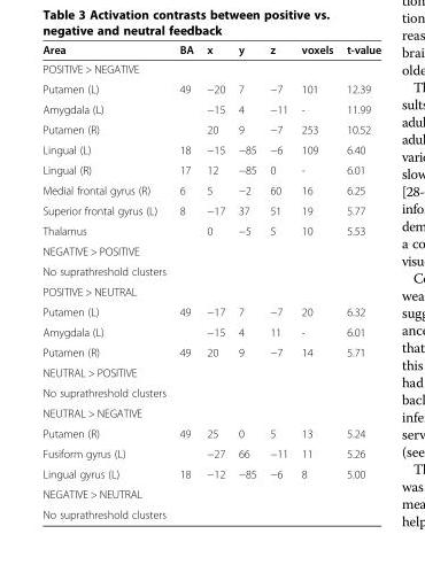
<table><thead><tr><td>Area</td><td>BA</td><td>x</td><td>y</td><td>z</td><td>voxels</td><td>t-value</td></tr></thead><tbody><tr><td colspan="7">POSITIVE &gt; NEGATIVE</td></tr><tr><td>Putamen (L)</td><td>49</td><td>−20</td><td>7</td><td>−7</td><td>101</td><td>12.39</td></tr><tr><td>Amygdala (L)</td><td></td><td>−15</td><td>4</td><td>−11</td><td>-</td><td>11.99</td></tr><tr><td>Putamen (R)</td><td></td><td>20</td><td>9</td><td>−7</td><td>253</td><td>10.52</td></tr><tr><td>Lingual (L)</td><td>18</td><td>−15</td><td>−85</td><td>−6</td><td>109</td><td>6.40</td></tr><tr><td>Lingual (R)</td><td>17</td><td>12</td><td>−85</td><td>0</td><td>-</td><td>6.01</td></tr><tr><td>Medial frontal gyrus (R)</td><td>6</td><td>5</td><td>−2</td><td>60</td><td>16</td><td>6.25</td></tr><tr><td>Superior frontal gyrus (L)</td><td>8</td><td>−17</td><td>37</td><td>51</td><td>19</td><td>5.77</td></tr><tr><td>Thalamus</td><td></td><td>0</td><td>−5</td><td>5</td><td>10</td><td>5.53</td></tr><tr><td colspan="7">NEGATIVE &gt; POSITIVE</td></tr><tr><td colspan="7">No suprathreshold clusters</td></tr><tr><td colspan="7">POSITIVE &gt; NEUTRAL</td></tr><tr><td>Putamen (L)</td><td>49</td><td>−17</td><td>7</td><td>−7</td><td>20</td><td>6.32</td></tr><tr><td>Amygdala (L)</td><td></td><td>−15</td><td>4</td><td>11</td><td>-</td><td>6.01</td></tr><tr><td>Putamen (R)</td><td>49</td><td>20</td><td>9</td><td>−7</td><td>14</td><td>5.71</td></tr><tr><td colspan="7">NEUTRAL &gt; POSITIVE</td></tr><tr><td colspan="7">No suprathreshold clusters</td></tr><tr><td colspan="7">NEUTRAL &gt; NEGATIVE</td></tr><tr><td>Putamen (R)</td><td>49</td><td>25</td><td>0</td><td>5</td><td>13</td><td>5.24</td></tr><tr><td>Fusiform gyrus (L)</td><td></td><td>−27</td><td>66</td><td>−11</td><td>11</td><td>5.26</td></tr><tr><td>Lingual gyrus (L)</td><td>18</td><td>−12</td><td>−85</td><td>−6</td><td>8</td><td>5.00</td></tr><tr><td colspan="7">NEGATIVE &gt; NEUTRAL</td></tr><tr><td>No suprathreshold clusters</td><td></td><td></td><td></td><td></td><td></td><td></td></tr></tbody></table>